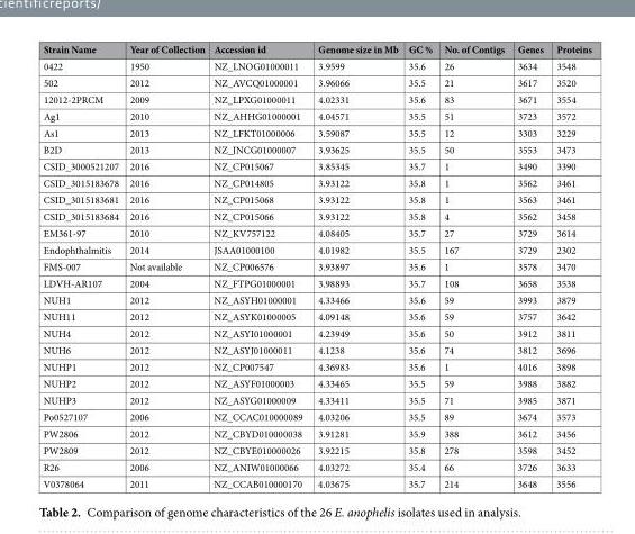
<table><thead><tr><td>Strain Name</td><td>Year of Collection</td><td>Accession id</td><td>Genome size in Mb</td><td>GC %</td><td>No. of Contigs</td><td>Genes</td><td>Proteins</td></tr></thead><tbody><tr><td>0422</td><td>1950</td><td>NZ_LNOG01000011</td><td>3.9599</td><td>35.6</td><td>26</td><td>3634</td><td>3548</td></tr><tr><td>502</td><td>2012</td><td>NZ_AVCQ01000001</td><td>3.96066</td><td>35.5</td><td>21</td><td>3617</td><td>3520</td></tr><tr><td>12012-2PRCM</td><td>2009</td><td>NZ_LPXG01000011</td><td>4.02331</td><td>35.6</td><td>83</td><td>3671</td><td>3554</td></tr><tr><td>Ag1</td><td>2010</td><td>NZ_AHHG01000001</td><td>4.04571</td><td>35.5</td><td>51</td><td>3723</td><td>3572</td></tr><tr><td>As1</td><td>2013</td><td>NZ_LFKT01000006</td><td>3.59087</td><td>35.5</td><td>12</td><td>3303</td><td>3229</td></tr><tr><td>B2D</td><td>2013</td><td>NZ_JNCG01000007</td><td>3.93625</td><td>35.5</td><td>50</td><td>3553</td><td>3473</td></tr><tr><td>CSID_3000521207</td><td>2016</td><td>NZ_CP015067</td><td>3.85345</td><td>35.7</td><td>1</td><td>3490</td><td>3390</td></tr><tr><td>CSID_3015183678</td><td>2016</td><td>NZ_CP014805</td><td>3.93122</td><td>35.8</td><td>1</td><td>3562</td><td>3461</td></tr><tr><td>CSID_3015183681</td><td>2016</td><td>NZ_CP015068</td><td>3.93122</td><td>35.8</td><td>1</td><td>3563</td><td>3461</td></tr><tr><td>CSID_3015183684</td><td>2016</td><td>NZ_CP015066</td><td>3.93122</td><td>35.8</td><td>4</td><td>3562</td><td>3458</td></tr><tr><td>EM361-97</td><td>2010</td><td>NZ_KV757122</td><td>4.08405</td><td>35.7</td><td>27</td><td>3729</td><td>3614</td></tr><tr><td>Endophthalmitis</td><td>2014</td><td>JSAA01000100</td><td>4.01982</td><td>35.5</td><td>167</td><td>3729</td><td>2302</td></tr><tr><td>FMS-007</td><td>Not available</td><td>NZ_CP006576</td><td>3.93897</td><td>35.6</td><td>1</td><td>3578</td><td>3470</td></tr><tr><td>LDVH-AR107</td><td>2004</td><td>NZ_FTPG01000001</td><td>3.98893</td><td>35.7</td><td>108</td><td>3658</td><td>3538</td></tr><tr><td>NUH1</td><td>2012</td><td>NZ_ASYH01000001</td><td>4.33466</td><td>35.6</td><td>59</td><td>3993</td><td>3879</td></tr><tr><td>NUH11</td><td>2012</td><td>NZ_ASYK01000005</td><td>4.09148</td><td>35.6</td><td>59</td><td>3757</td><td>3642</td></tr><tr><td>NUH4</td><td>2012</td><td>NZ_ASYI01000001</td><td>4.23949</td><td>35.6</td><td>50</td><td>3912</td><td>3811</td></tr><tr><td>NUH6</td><td>2012</td><td>NZ_ASYJ01000011</td><td>4.1238</td><td>35.6</td><td>74</td><td>3812</td><td>3696</td></tr><tr><td>NUHP1</td><td>2012</td><td>NZ_CP007547</td><td>4.36983</td><td>35.6</td><td>1</td><td>4016</td><td>3898</td></tr><tr><td>NUHP2</td><td>2012</td><td>NZ_ASYF01000003</td><td>4.33465</td><td>35.5</td><td>59</td><td>3988</td><td>3882</td></tr><tr><td>NUHP3</td><td>2012</td><td>NZ_ASYG01000009</td><td>4.33411</td><td>35.5</td><td>71</td><td>3985</td><td>3871</td></tr><tr><td>Po0527107</td><td>2006</td><td>NZ_CCAC010000089</td><td>4.03206</td><td>35.5</td><td>89</td><td>3674</td><td>3573</td></tr><tr><td>PW2806</td><td>2012</td><td>NZ_CBYD010000038</td><td>3.91281</td><td>35.9</td><td>388</td><td>3612</td><td>3456</td></tr><tr><td>PW2809</td><td>2012</td><td>NZ_CBYE010000026</td><td>3.92215</td><td>35.8</td><td>278</td><td>3598</td><td>3452</td></tr><tr><td>R26</td><td>2006</td><td>NZ_ANIW01000066</td><td>4.03272</td><td>35.4</td><td>66</td><td>3726</td><td>3633</td></tr><tr><td>V0378064</td><td>2011</td><td>NZ_CCAB010000170</td><td>4.03675</td><td>35.7</td><td>214</td><td>3648</td><td>3556</td></tr></tbody></table>